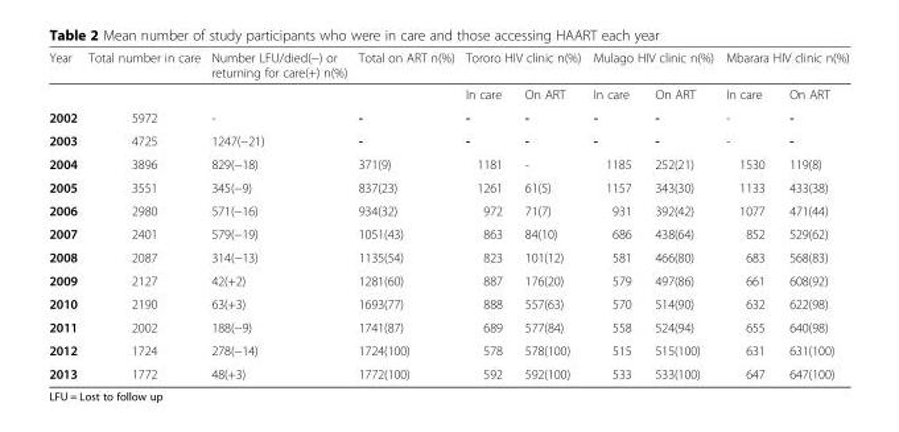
<table><thead><tr><td rowspan="2">Year</td><td rowspan="2">Total number in care</td><td rowspan="2">Number LFU/died(−) or returning for care(+) n(%)</td><td rowspan="2">Total on ART n(%)</td><td colspan="2">Tororo HIV clinic n(%)</td><td colspan="2">Mulago HIV clinic n(%)</td><td colspan="2">Mbarara HIV clinic n(%)</td></tr><tr><td>In care</td><td>On ART</td><td>In care</td><td>On ART</td><td>In care</td><td>On ART</td></tr></thead><tbody><tr><td>2002</td><td>5972</td><td>-</td><td>-</td><td>-</td><td>-</td><td>-</td><td>-</td><td>-</td><td>-</td></tr><tr><td>2003</td><td>4725</td><td>1247(−21)</td><td>-</td><td>-</td><td>-</td><td>-</td><td>-</td><td>-</td><td>-</td></tr><tr><td>2004</td><td>3896</td><td>829(−18)</td><td>371(9)</td><td>1181</td><td>-</td><td>1185</td><td>252(21)</td><td>1530</td><td>119(8)</td></tr><tr><td>2005</td><td>3551</td><td>345(−9)</td><td>837(23)</td><td>1261</td><td>61(5)</td><td>1157</td><td>343(30)</td><td>1133</td><td>433(38)</td></tr><tr><td>2006</td><td>2980</td><td>571(−16)</td><td>934(32)</td><td>972</td><td>71(7)</td><td>931</td><td>392(42)</td><td>1077</td><td>471(44)</td></tr><tr><td>2007</td><td>2401</td><td>579(−19)</td><td>1051(43)</td><td>863</td><td>84(10)</td><td>686</td><td>438(64)</td><td>852</td><td>529(62)</td></tr><tr><td>2008</td><td>2087</td><td>314(−13)</td><td>1135(54)</td><td>823</td><td>101(12)</td><td>581</td><td>466(80)</td><td>683</td><td>568(83)</td></tr><tr><td>2009</td><td>2127</td><td>42(+2)</td><td>1281(60)</td><td>887</td><td>176(20)</td><td>579</td><td>497(86)</td><td>661</td><td>608(92)</td></tr><tr><td>2010</td><td>2190</td><td>63(+3)</td><td>1693(77)</td><td>888</td><td>557(63)</td><td>570</td><td>514(90)</td><td>632</td><td>622(98)</td></tr><tr><td>2011</td><td>2002</td><td>188(−9)</td><td>1741(87)</td><td>689</td><td>577(84)</td><td>558</td><td>524(94)</td><td>655</td><td>640(98)</td></tr><tr><td>2012</td><td>1724</td><td>278(−14)</td><td>1724(100)</td><td>578</td><td>578(100)</td><td>515</td><td>515(100)</td><td>631</td><td>631(100)</td></tr><tr><td>2013</td><td>1772</td><td>48(+3)</td><td>1772(100)</td><td>592</td><td>592(100)</td><td>533</td><td>533(100)</td><td>647</td><td>647(100)</td></tr></tbody></table>